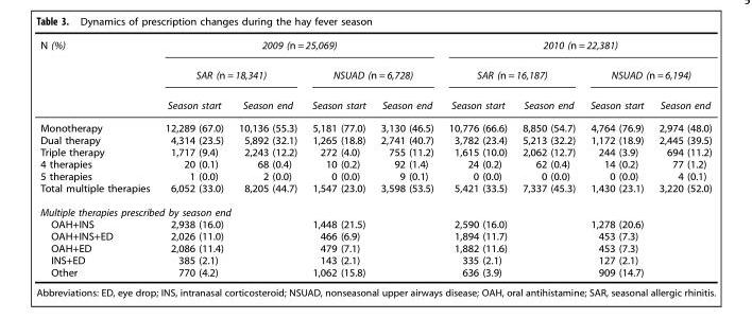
<table><thead><tr><td rowspan="3">N (%)</td><td colspan="4">2009 (n = 25,069)</td><td colspan="4">2010 (n = 22,381)</td></tr><tr><td colspan="2">SAR (n = 18,341)</td><td colspan="2">NSUAD (n = 6,728)</td><td colspan="2">SAR (n = 16,187)</td><td colspan="2">NSUAD (n = 6,194)</td></tr><tr><td>Season start</td><td>Season end</td><td>Season start</td><td>Season end</td><td>Season start</td><td>Season end</td><td>Season start</td><td>Season end</td></tr></thead><tbody><tr><td>Monotherapy</td><td>12,289 (67.0)</td><td>10,136 (55.3)</td><td>5,181 (77.0)</td><td>3,130 (46.5)</td><td>10,776 (66.6)</td><td>8,850 (54.7)</td><td>4,764 (76.9)</td><td>2,974 (48.0)</td></tr><tr><td>Dual therapy</td><td>4,314 (23.5)</td><td>5,892 (32.1)</td><td>1,265 (18.8)</td><td>2,741 (40.7)</td><td>3,782 (23.4)</td><td>5,213 (32.2)</td><td>1,172 (18.9)</td><td>2,445 (39.5)</td></tr><tr><td>Triple therapy</td><td>1,717 (9.4)</td><td>2,243 (12.2)</td><td>272 (4.0)</td><td>755 (11.2)</td><td>1,615 (10.0)</td><td>2,062 (12.7)</td><td>244 (3.9)</td><td>694 (11.2)</td></tr><tr><td>4 therapies</td><td>20 (0.1)</td><td>68 (0.4)</td><td>10 (0.2)</td><td>92 (1.4)</td><td>24 (0.2)</td><td>62 (0.4)</td><td>14 (0.2)</td><td>77 (1.2)</td></tr><tr><td>5 therapies</td><td>1 (0.0)</td><td>2 (0.0)</td><td>0 (0.0)</td><td>9 (0.1)</td><td>0 (0.0)</td><td>0 (0.0)</td><td>0 (0.0)</td><td>4 (0.1)</td></tr><tr><td>Total multiple therapies</td><td>6,052 (33.0)</td><td>8,205 (44.7)</td><td>1,547 (23.0)</td><td>3,598 (53.5)</td><td>5,421 (33.5)</td><td>7,337 (45.3)</td><td>1,430 (23.1)</td><td>3,220 (52.0)</td></tr><tr><td colspan="9">Multiple therapies prescribed by season end</td></tr><tr><td>OAH+INS</td><td colspan="2">2,938 (16.0)</td><td colspan="2">1,448 (21.5)</td><td colspan="2">2,590 (16.0)</td><td colspan="2">1,278 (20.6)</td></tr><tr><td>OAH+INS+ED</td><td colspan="2">2,026 (11.0)</td><td colspan="2">466 (6.9)</td><td colspan="2">1,894 (11.7)</td><td colspan="2">453 (7.3)</td></tr><tr><td>OAH+ED</td><td colspan="2">2,086 (11.4)</td><td colspan="2">479 (7.1)</td><td colspan="2">1,882 (11.6)</td><td colspan="2">453 (7.3)</td></tr><tr><td>INS+ED</td><td colspan="2">385 (2.1)</td><td colspan="2">143 (2.1)</td><td colspan="2">335 (2.1)</td><td colspan="2">127 (2.1)</td></tr><tr><td>Other</td><td colspan="2">770 (4.2)</td><td colspan="2">1,062 (15.8)</td><td colspan="2">636 (3.9)</td><td colspan="2">909 (14.7)</td></tr></tbody></table>